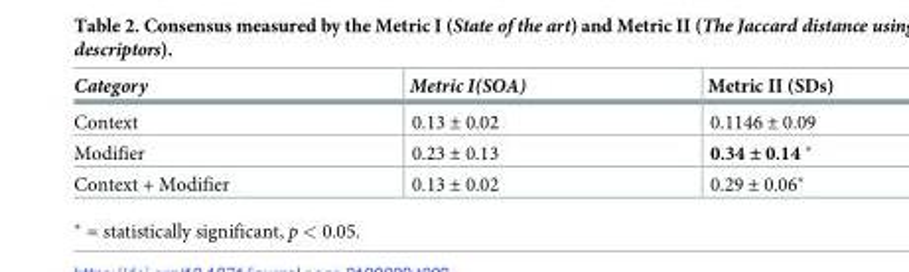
<table><thead><tr><td>Category</td><td>Metric I(SOA)</td><td>Metric II (SDs)</td></tr></thead><tbody><tr><td>Context</td><td>0.13 ± 0.02</td><td>0.1146 ± 0.09</td></tr><tr><td>Modifier</td><td>0.23 ± 0.13</td><td>0.34 ± 0.14 *</td></tr><tr><td>Context + Modifier</td><td>0.13 ± 0.02</td><td>0.29 ± 0.06*</td></tr></tbody></table>